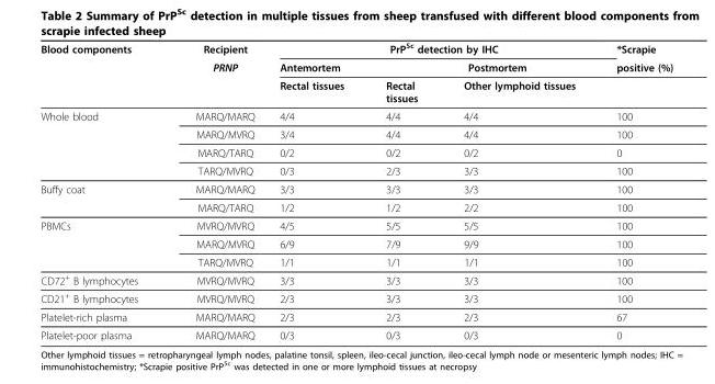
<table><thead><tr><td rowspan="3">Blood components</td><td rowspan="3">Recipient PRNP</td><td colspan="3">PrP<sup>Sc</sup> detection by IHC</td><td rowspan="3">*Scrapie positive (%)</td></tr><tr><td rowspan="2">Antemortem Rectal tissues</td><td colspan="2">Postmortem</td></tr><tr><td>Rectal tissues</td><td>Other lymphoid tissues</td></tr></thead><tbody><tr><td rowspan="4">Whole blood</td><td>MARQ/MARQ</td><td>4/4</td><td>4/4</td><td>4/4</td><td>100</td></tr><tr><td>MARQ/MVRQ</td><td>3/4</td><td>4/4</td><td>4/4</td><td>100</td></tr><tr><td>MARQ/TARQ</td><td>0/2</td><td>0/2</td><td>0/2</td><td>0</td></tr><tr><td>TARQ/MVRQ</td><td>0/3</td><td>2/3</td><td>3/3</td><td>100</td></tr><tr><td rowspan="2">Buffy coat</td><td>MARQ/MARQ</td><td>3/3</td><td>3/3</td><td>3/3</td><td>100</td></tr><tr><td>MARQ/TARQ</td><td>1/2</td><td>1/2</td><td>2/2</td><td>100</td></tr><tr><td rowspan="3">PBMCs</td><td>MVRQ/MVRQ</td><td>4/5</td><td>5/5</td><td>5/5</td><td>100</td></tr><tr><td>MARQ/MVRQ</td><td>6/9</td><td>7/9</td><td>9/9</td><td>100</td></tr><tr><td>TARQ/MVRQ</td><td>1/1</td><td>1/1</td><td>1/1</td><td>100</td></tr><tr><td>CD72<sup>+</sup> B lymphocytes</td><td>MVRQ/MVRQ</td><td>3/3</td><td>3/3</td><td>3/3</td><td>100</td></tr><tr><td>CD21<sup>+</sup> B lymphocytes</td><td>MVRQ/MVRQ</td><td>2/3</td><td>3/3</td><td>3/3</td><td>100</td></tr><tr><td>Platelet-rich plasma</td><td>MARQ/MARQ</td><td>2/3</td><td>2/3</td><td>2/3</td><td>67</td></tr><tr><td>Platelet-poor plasma</td><td>MARQ/MARQ</td><td>0/3</td><td>0/3</td><td>0/3</td><td>0</td></tr></tbody></table>